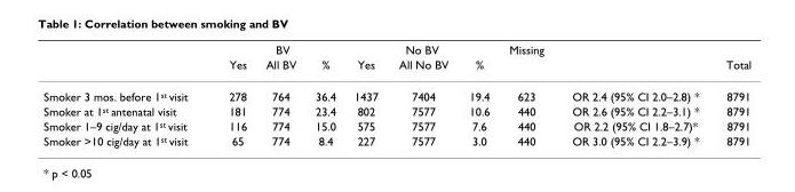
<table><thead><tr><td rowspan="2"></td><td colspan="3">BV</td><td colspan="3">No BV</td><td rowspan="2">Missing</td><td rowspan="2"></td><td rowspan="2">Total</td></tr><tr><td>Yes</td><td>All BV</td><td>%</td><td>Yes</td><td>All No BV</td><td>%</td></tr></thead><tbody><tr><td>Smoker 3 mos. before 1<sup>st</sup> visit</td><td>278</td><td>764</td><td>36.4</td><td>1437</td><td>7404</td><td>19.4</td><td>623</td><td>OR 2.4 (95% CI 2.0–2.8) *</td><td>8791</td></tr><tr><td>Smoker at 1<sup>st</sup> antenatal visit</td><td>181</td><td>774</td><td>23.4</td><td>802</td><td>7577</td><td>10.6</td><td>440</td><td>OR 2.6 (95% CI 2.2–3.1) *</td><td>8791</td></tr><tr><td>Smoker 1–9 cig/day at 1<sup>st</sup> visit</td><td>116</td><td>774</td><td>15.0</td><td>575</td><td>7577</td><td>7.6</td><td>440</td><td>OR 2.2 (95% CI 1.8–2.7)*</td><td>8791</td></tr><tr><td>Smoker &gt;10 cig/day at 1<sup>st</sup> visit</td><td>65</td><td>774</td><td>8.4</td><td>227</td><td>7577</td><td>3.0</td><td>440</td><td>OR 3.0 (95% CI 2.2–3.9) *</td><td>8791</td></tr></tbody></table>